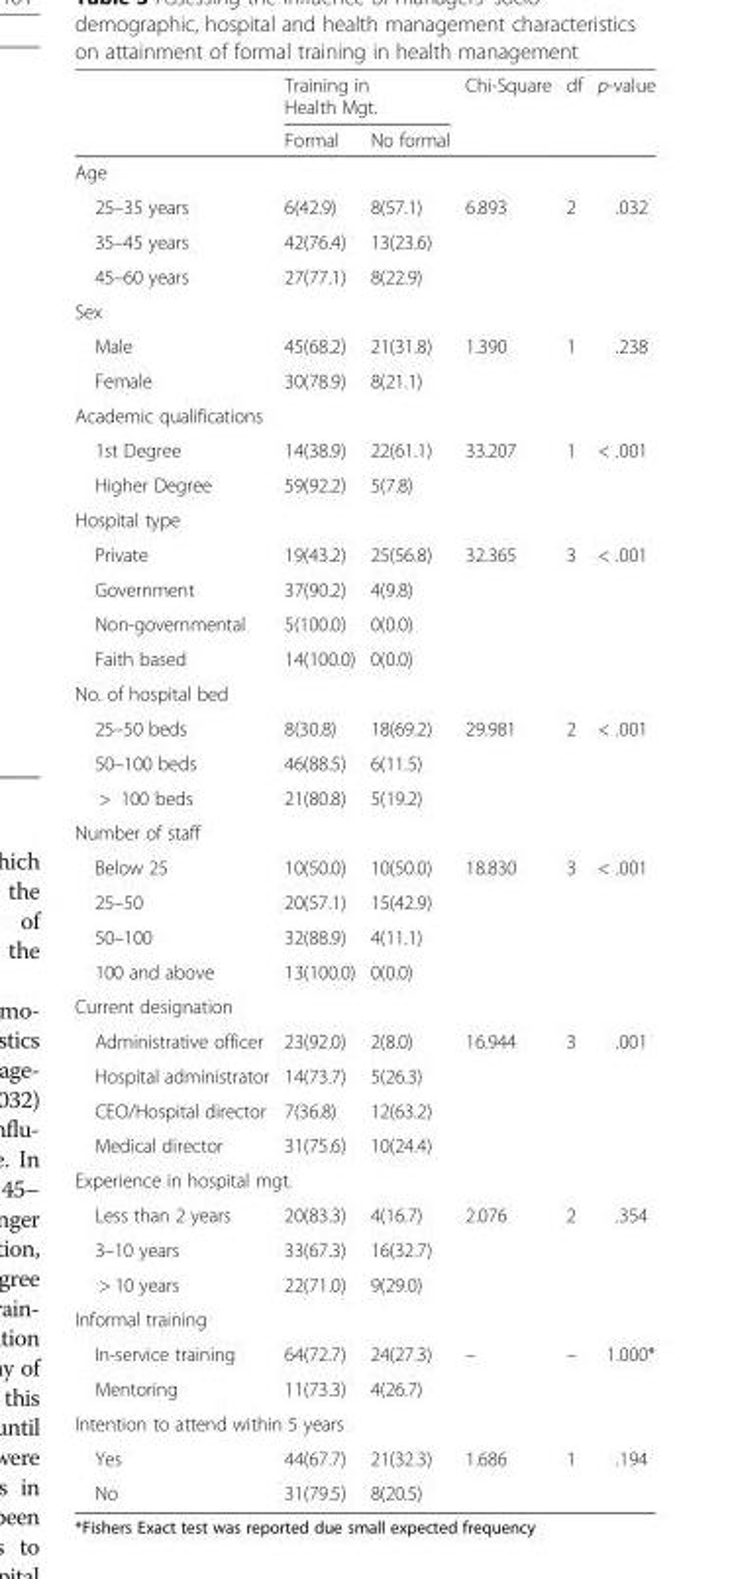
<table><thead><tr><td rowspan="2"></td><td colspan="2">Training in Health Mgt.</td><td rowspan="2">Chi-Square</td><td rowspan="2">df</td><td rowspan="2">p-value</td></tr><tr><td>Formal</td><td>No formal</td></tr></thead><tbody><tr><td colspan="6">Age</td></tr><tr><td>25–35 years</td><td>6(42.9)</td><td>8(57.1)</td><td>6.893</td><td>2</td><td>.032</td></tr><tr><td>35–45 years</td><td>42(76.4)</td><td>13(23.6)</td><td></td><td></td><td></td></tr><tr><td>45–60 years</td><td>27(77.1)</td><td>8(22.9)</td><td></td><td></td><td></td></tr><tr><td colspan="6">Sex</td></tr><tr><td>Male</td><td>45(68.2)</td><td>21(31.8)</td><td>1.390</td><td>1</td><td>.238</td></tr><tr><td>Female</td><td>30(78.9)</td><td>8(21.1)</td><td></td><td></td><td></td></tr><tr><td colspan="6">Academic qualifications</td></tr><tr><td>1st Degree</td><td>14(38.9)</td><td>22(61.1)</td><td>33.207</td><td>1</td><td>&lt; .001</td></tr><tr><td>Higher Degree</td><td>59(92.2)</td><td>5(7.8)</td><td></td><td></td><td></td></tr><tr><td colspan="6">Hospital type</td></tr><tr><td>Private</td><td>19(43.2)</td><td>25(56.8)</td><td>32.365</td><td>3</td><td>&lt; .001</td></tr><tr><td>Government</td><td>37(90.2)</td><td>4(9.8)</td><td></td><td></td><td></td></tr><tr><td>Non-governmental</td><td>5(100.0)</td><td>0(0.0)</td><td></td><td></td><td></td></tr><tr><td>Faith based</td><td>14(100.0)</td><td>0(0.0)</td><td></td><td></td><td></td></tr><tr><td colspan="6">No. of hospital bed</td></tr><tr><td>25–50 beds</td><td>8(30.8)</td><td>18(69.2)</td><td>29.981</td><td>2</td><td>&lt; .001</td></tr><tr><td>50–100 beds</td><td>46(88.5)</td><td>6(11.5)</td><td></td><td></td><td></td></tr><tr><td>&gt; 100 beds</td><td>21(80.8)</td><td>5(19.2)</td><td></td><td></td><td></td></tr><tr><td colspan="6">Number of staff</td></tr><tr><td>Below 25</td><td>10(50.0)</td><td>10(50.0)</td><td>18.830</td><td>3</td><td>&lt; .001</td></tr><tr><td>25–50</td><td>20(57.1)</td><td>15(42.9)</td><td></td><td></td><td></td></tr><tr><td>50–100</td><td>32(88.9)</td><td>4(11.1)</td><td></td><td></td><td></td></tr><tr><td>100 and above</td><td>13(100.0)</td><td>0(0.0)</td><td></td><td></td><td></td></tr><tr><td colspan="6">Current designation</td></tr><tr><td>Administrative officer</td><td>23(92.0)</td><td>2(8.0)</td><td>16.944</td><td>3</td><td>.001</td></tr><tr><td>Hospital administrator</td><td>14(73.7)</td><td>5(26.3)</td><td></td><td></td><td></td></tr><tr><td>CEO/Hospital director</td><td>7(36.8)</td><td>12(63.2)</td><td></td><td></td><td></td></tr><tr><td>Medical director</td><td>31(75.6)</td><td>10(24.4)</td><td></td><td></td><td></td></tr><tr><td colspan="6">Experience in hospital mgt.</td></tr><tr><td>Less than 2 years</td><td>20(83.3)</td><td>4(16.7)</td><td>2.076</td><td>2</td><td>.354</td></tr><tr><td>3–10 years</td><td>33(67.3)</td><td>16(32.7)</td><td></td><td></td><td></td></tr><tr><td>&gt; 10 years</td><td>22(71.0)</td><td>9(29.0)</td><td></td><td></td><td></td></tr><tr><td colspan="6">Informal training</td></tr><tr><td>In-service training</td><td>64(72.7)</td><td>24(27.3)</td><td>–</td><td>–</td><td>1.000*</td></tr><tr><td>Mentoring</td><td>11(73.3)</td><td>4(26.7)</td><td></td><td></td><td></td></tr><tr><td colspan="6">Intention to attend within 5 years</td></tr><tr><td>Yes</td><td>44(67.7)</td><td>21(32.3)</td><td>1.686</td><td>1</td><td>.194</td></tr><tr><td>No</td><td>31(79.5)</td><td>8(20.5)</td><td></td><td></td><td></td></tr></tbody></table>